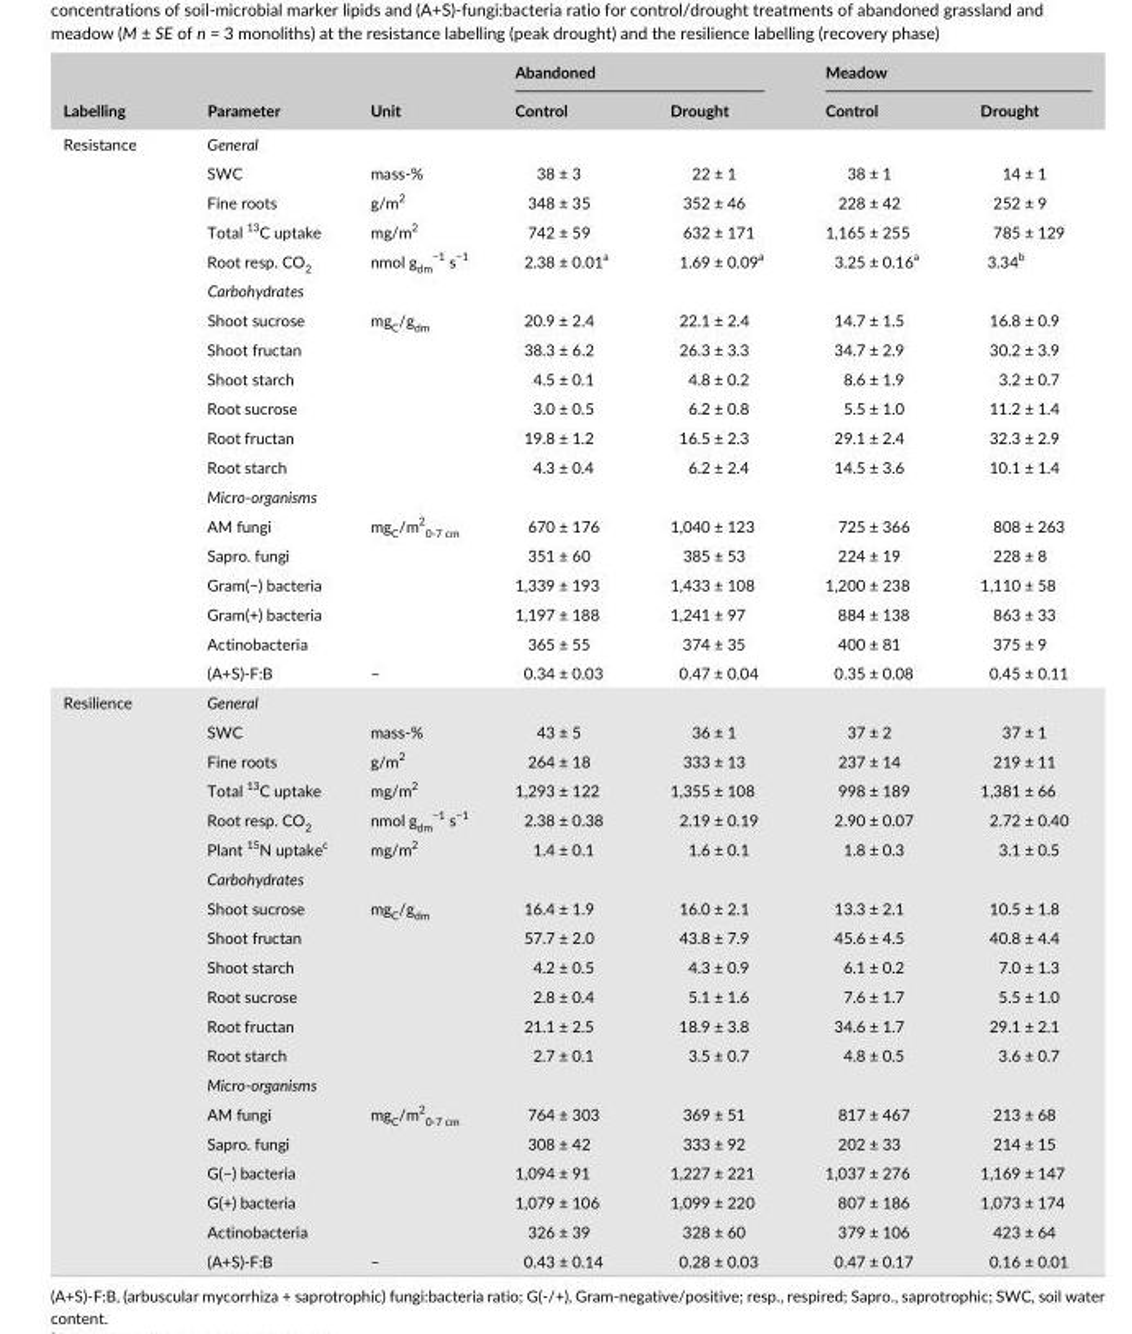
<table><thead><tr><td rowspan="2">Labelling</td><td rowspan="2">Parameter</td><td rowspan="2">Unit</td><td colspan="2">Abandoned</td><td colspan="2">Meadow</td></tr><tr><td>Control</td><td>Drought</td><td>Control</td><td>Drought</td></tr></thead><tbody><tr><td rowspan="19">Resistance</td><td colspan="6">General</td></tr><tr><td>SWC</td><td>mass- %</td><td>38 ± 3</td><td>22 ± 1</td><td>38 ± 1</td><td>14 ± 1</td></tr><tr><td>Fine roots</td><td>g/m<sup>2</sup></td><td>348 ± 35</td><td>352 ± 46</td><td>228 ± 42</td><td>252 ± 9</td></tr><tr><td>Total <sup>13</sup>C uptake</td><td>mg/m<sup>2</sup></td><td>742 ± 59</td><td>632 ± 171</td><td>1,165 ± 255</td><td>785 ± 129</td></tr><tr><td>Root resp. CO<sub>2</sub></td><td>nmol g<sub>dm</sub> <sup>−1</sup> s<sup>−1</sup></td><td>2.38 ± 0.01<sup>a</sup></td><td>1.69 ± 0.09<sup>a</sup></td><td>3.25 ± 0.16<sup>a</sup></td><td>3.34<sup>b</sup></td></tr><tr><td colspan="6">Carbohydrates</td></tr><tr><td>Shoot sucrose</td><td rowspan="6">mg<sub>C</sub>/g<sub>dm</sub></td><td>20.9 ± 2.4</td><td>22.1 ± 2.4</td><td>14.7 ± 1.5</td><td>16.8 ± 0.9</td></tr><tr><td>Shoot fructan</td><td>38.3 ± 6.2</td><td>26.3 ± 3.3</td><td>34.7 ± 2.9</td><td>30.2 ± 3.9</td></tr><tr><td>Shoot starch</td><td>4.5 ± 0.1</td><td>4.8 ± 0.2</td><td>8.6 ± 1.9</td><td>3.2 ± 0.7</td></tr><tr><td>Root sucrose</td><td>3.0 ± 0.5</td><td>6.2 ± 0.8</td><td>5.5 ± 1.0</td><td>11.2 ± 1.4</td></tr><tr><td>Root fructan</td><td>19.8 ± 1.2</td><td>16.5 ± 2.3</td><td>29.1 ± 2.4</td><td>32.3 ± 2.9</td></tr><tr><td>Root starch</td><td>4.3 ± 0.4</td><td>6.2 ± 2.4</td><td>14.5 ± 3.6</td><td>10.1 ± 1.4</td></tr><tr><td colspan="6">Micro- organisms</td></tr><tr><td>AM fungi</td><td rowspan="5">mg<sub>C</sub>/m<sup>2</sup> <sub>0-7 cm</sub></td><td>670 ± 176</td><td>1,040 ± 123</td><td>725 ± 366</td><td>808 ± 263</td></tr><tr><td>Sapro. fungi</td><td>351 ± 60</td><td>385 ± 53</td><td>224 ± 19</td><td>228 ± 8</td></tr><tr><td>Gram(−) bacteria</td><td>1,339 ± 193</td><td>1,433 ± 108</td><td>1,200 ± 238</td><td>1,110 ± 58</td></tr><tr><td>Gram(+) bacteria</td><td>1,197 ± 188</td><td>1,241 ± 97</td><td>884 ± 138</td><td>863 ± 33</td></tr><tr><td>Actinobacteria</td><td>365 ± 55</td><td>374 ± 35</td><td>400 ± 81</td><td>375 ± 9</td></tr><tr><td>(A+S)- F:B</td><td>–</td><td>0.34 ± 0.03</td><td>0.47 ± 0.04</td><td>0.35 ± 0.08</td><td>0.45 ± 0.11</td></tr><tr><td rowspan="20">Resilience</td><td colspan="6">General</td></tr><tr><td>SWC</td><td>mass- %</td><td>43 ± 5</td><td>36 ± 1</td><td>37 ± 2</td><td>37 ± 1</td></tr><tr><td>Fine roots</td><td>g/m<sup>2</sup></td><td>264 ± 18</td><td>333 ± 13</td><td>237 ± 14</td><td>219 ± 11</td></tr><tr><td>Total <sup>13</sup>C uptake</td><td>mg/m<sup>2</sup></td><td>1,293 ± 122</td><td>1,355 ± 108</td><td>998 ± 189</td><td>1,381 ± 66</td></tr><tr><td>Root resp. CO<sub>2</sub></td><td>nmol g<sub>dm</sub> <sup>−1</sup> s<sup>−1</sup></td><td>2.38 ± 0.38</td><td>2.19 ± 0.19</td><td>2.90 ± 0.07</td><td>2.72 ± 0.40</td></tr><tr><td>Plant <sup>15</sup>N uptake<sup>c</sup></td><td>mg/m<sup>2</sup></td><td>1.4 ± 0.1</td><td>1.6 ± 0.1</td><td>1.8 ± 0.3</td><td>3.1 ± 0.5</td></tr><tr><td colspan="6">Carbohydrates</td></tr><tr><td>Shoot sucrose</td><td rowspan="6">mg<sub>C</sub>/g<sub>dm</sub></td><td>16.4 ± 1.9</td><td>16.0 ± 2.1</td><td>13.3 ± 2.1</td><td>10.5 ± 1.8</td></tr><tr><td>Shoot fructan</td><td>57.7 ± 2.0</td><td>43.8 ± 7.9</td><td>45.6 ± 4.5</td><td>40.8 ± 4.4</td></tr><tr><td>Shoot starch</td><td>4.2 ± 0.5</td><td>4.3 ± 0.9</td><td>6.1 ± 0.2</td><td>7.0 ± 1.3</td></tr><tr><td>Root sucrose</td><td>2.8 ± 0.4</td><td>5.1 ± 1.6</td><td>7.6 ± 1.7</td><td>5.5 ± 1.0</td></tr><tr><td>Root fructan</td><td>21.1 ± 2.5</td><td>18.9 ± 3.8</td><td>34.6 ± 1.7</td><td>29.1 ± 2.1</td></tr><tr><td>Root starch</td><td>2.7 ± 0.1</td><td>3.5 ± 0.7</td><td>4.8 ± 0.5</td><td>3.6 ± 0.7</td></tr><tr><td colspan="6">Micro- organisms</td></tr><tr><td>AM fungi</td><td rowspan="5">mg<sub>C</sub>/m<sup>2</sup> <sub>0-7 cm</sub></td><td>764 ± 303</td><td>369 ± 51</td><td>817 ± 467</td><td>213 ± 68</td></tr><tr><td>Sapro. fungi</td><td>308 ± 42</td><td>333 ± 92</td><td>202 ± 33</td><td>214 ± 15</td></tr><tr><td>G(−) bacteria</td><td>1,094 ± 91</td><td>1,227 ± 221</td><td>1,037 ± 276</td><td>1,169 ± 147</td></tr><tr><td>G(+) bacteria</td><td>1,079 ± 106</td><td>1,099 ± 220</td><td>807 ± 186</td><td>1,073 ± 174</td></tr><tr><td>Actinobacteria</td><td>326 ± 39</td><td>328 ± 60</td><td>379 ± 106</td><td>423 ± 64</td></tr><tr><td>(A+S)- F:B</td><td>–</td><td>0.43 ± 0.14</td><td>0.28 ± 0.03</td><td>0.47 ± 0.17</td><td>0.16 ± 0.01</td></tr></tbody></table>